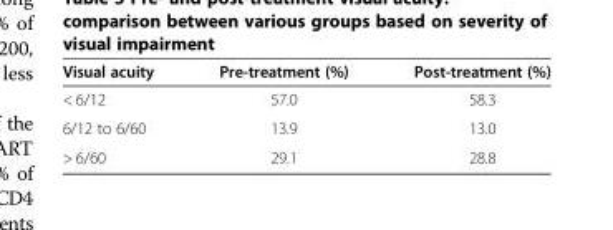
<table><thead><tr><td>Visual acuity</td><td>Pre-treatment (%)</td><td>Post-treatment (%)</td></tr></thead><tbody><tr><td>&lt; 6/12</td><td>57.0</td><td>58.3</td></tr><tr><td>6/12 to 6/60</td><td>13.9</td><td>13.0</td></tr><tr><td>&gt; 6/60</td><td>29.1</td><td>28.8</td></tr></tbody></table>